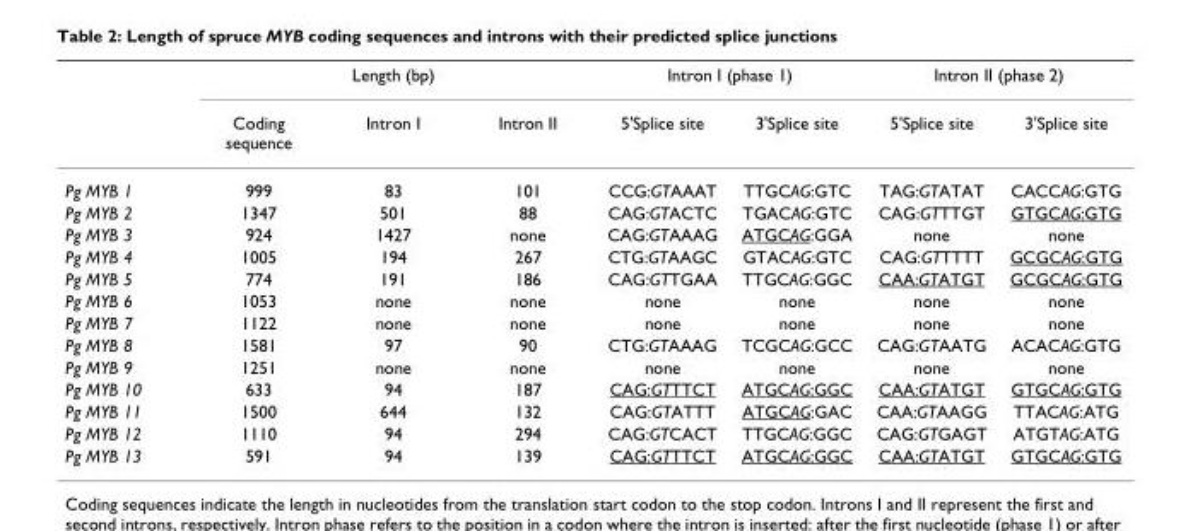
<table><thead><tr><td rowspan="2"></td><td colspan="3">Length (bp)</td><td colspan="2">Intron I (phase 1)</td><td colspan="2">Intron II (phase 2)</td></tr><tr><td>Coding sequence</td><td>Intron I</td><td>Intron II</td><td>5&#x27;Splice site</td><td>3&#x27;Splice site</td><td>5&#x27;Splice site</td><td>3&#x27;Splice site</td></tr></thead><tbody><tr><td>Pg MYB 1</td><td>999</td><td>83</td><td>101</td><td>CCG:GTAAAT</td><td>TTGCAG:GTC</td><td>TAG:GTATAT</td><td>CACCAG:GTG</td></tr><tr><td>Pg MYB 2</td><td>1347</td><td>501</td><td>88</td><td>CAG:GTACTC</td><td>TGACAG:GTC</td><td>CAG:GTTTGT</td><td>GTGCAG:GTG</td></tr><tr><td>Pg MYB 3</td><td>924</td><td>1427</td><td>none</td><td>CAG:GTAAAG</td><td>ATGCAG:GGA</td><td>none</td><td>none</td></tr><tr><td>Pg MYB 4</td><td>1005</td><td>194</td><td>267</td><td>CTG:GTAAGC</td><td>GTACAG:GTC</td><td>CAG:GTTTTT</td><td>GCGCAG:GTG</td></tr><tr><td>Pg MYB 5</td><td>774</td><td>191</td><td>186</td><td>CAG:GTTGAA</td><td>TTGCAG:GGC</td><td>CAA:GTATGT</td><td>GCGCAG:GTG</td></tr><tr><td>Pg MYB 6</td><td>1053</td><td>none</td><td>none</td><td>none</td><td>none</td><td>none</td><td>none</td></tr><tr><td>Pg MYB 7</td><td>1122</td><td>none</td><td>none</td><td>none</td><td>none</td><td>none</td><td>none</td></tr><tr><td>Pg MYB 8</td><td>1581</td><td>97</td><td>90</td><td>CTG:GTAAAG</td><td>TCGCAG:GCC</td><td>CAG:GTAATG</td><td>ACACAG:GTG</td></tr><tr><td>Pg MYB 9</td><td>1251</td><td>none</td><td>none</td><td>none</td><td>none</td><td>none</td><td>none</td></tr><tr><td>Pg MYB 10</td><td>633</td><td>94</td><td>187</td><td>CAG:GTTTCT</td><td>ATGCAG:GGC</td><td>CAA:GTATGT</td><td>GTGCAG:GTG</td></tr><tr><td>Pg MYB 11</td><td>1500</td><td>644</td><td>132</td><td>CAG:GTATTT</td><td>ATGCAG:GAC</td><td>CAA:GTAAGG</td><td>TTACAG:ATG</td></tr><tr><td>Pg MYB 12</td><td>1110</td><td>94</td><td>294</td><td>CAG:GTCACT</td><td>TTGCAG:GGC</td><td>CAG:GTGAGT</td><td>ATGTAG:ATG</td></tr><tr><td>Pg MYB 13</td><td>591</td><td>94</td><td>139</td><td>CAG:GTTTCT</td><td>ATGCAG:GGC</td><td>CAA:GTATGT</td><td>GTGCAG:GTG</td></tr></tbody></table>